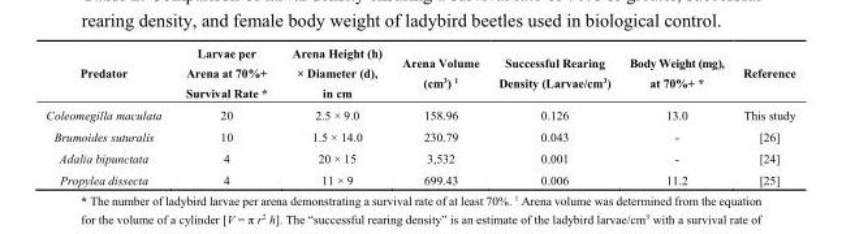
<table><thead><tr><td>Predator</td><td>Larvae per Arena at 70%+ Survival Rate *</td><td>Arena Height (h) × Diameter (d), in cm</td><td>Arena Volume (cm<sup>3</sup>) <sup>1</sup></td><td>Successful Rearing Density (Larvae/cm<sup>3</sup>)</td><td>Body Weight (mg), at 70%+ *</td><td>Reference</td></tr></thead><tbody><tr><td>Coleomegilla maculata</td><td>20</td><td>2.5 × 9.0</td><td>158.96</td><td>0.126</td><td>13.0</td><td>This study</td></tr><tr><td>Brumoides suturalis</td><td>10</td><td>1.5 × 14.0</td><td>230.79</td><td>0.043</td><td>-</td><td>[26]</td></tr><tr><td>Adalia bipunctata</td><td>4</td><td>20 × 15</td><td>3,532</td><td>0.001</td><td>-</td><td>[24]</td></tr><tr><td>Propylea dissecta</td><td>4</td><td>11 × 9</td><td>699.43</td><td>0.006</td><td>11.2</td><td>[25]</td></tr></tbody></table>